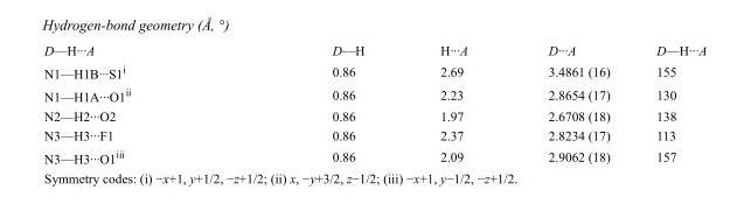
<table><tbody><tr><td>D—H···A</td><td>D—H</td><td>H···A</td><td>D···A</td><td>D—H···A</td></tr><tr><td>N1—H1B···S1<sup>i</sup></td><td>0.86</td><td>2.69</td><td>3.4861 (16)</td><td>155</td></tr><tr><td>N1—H1A···O1<sup>ii</sup></td><td>0.86</td><td>2.23</td><td>2.8654 (17)</td><td>130</td></tr><tr><td>N2—H2···O2</td><td>0.86</td><td>1.97</td><td>2.6708 (18)</td><td>138</td></tr><tr><td>N3—H3···F1</td><td>0.86</td><td>2.37</td><td>2.8234 (17)</td><td>113</td></tr><tr><td>N3—H3···O1<sup>iii</sup></td><td>0.86</td><td>2.09</td><td>2.9062 (18)</td><td>157</td></tr></tbody></table>